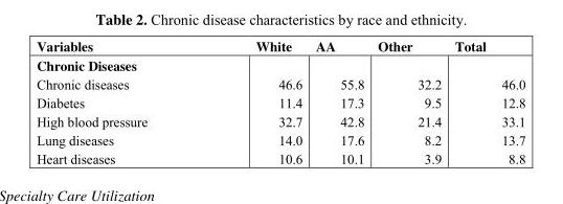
<table><thead><tr><td>Variables</td><td>White</td><td>AA</td><td>Other</td><td>Total</td></tr></thead><tbody><tr><td colspan="5">Chronic Diseases</td></tr><tr><td>Chronic diseases</td><td>46.6</td><td>55.8</td><td>32.2</td><td>46.0</td></tr><tr><td>Diabetes</td><td>11.4</td><td>17.3</td><td>9.5</td><td>12.8</td></tr><tr><td>High blood pressure</td><td>32.7</td><td>42.8</td><td>21.4</td><td>33.1</td></tr><tr><td>Lung diseases</td><td>14.0</td><td>17.6</td><td>8.2</td><td>13.7</td></tr><tr><td>Heart diseases</td><td>10.6</td><td>10.1</td><td>3.9</td><td>8.8</td></tr></tbody></table>